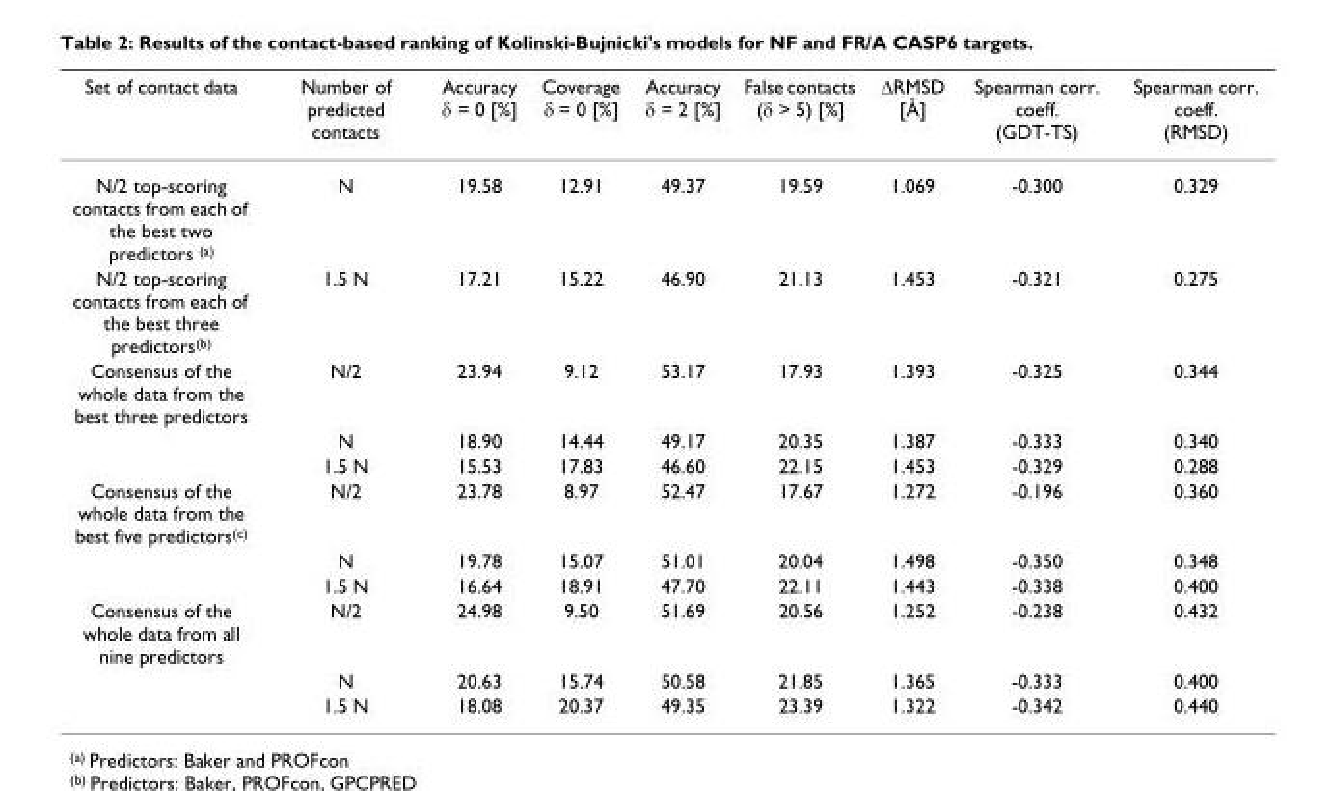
<table><thead><tr><td>Set of contact data</td><td>Number of predicted contacts</td><td>Accuracy δ = 0 [%]</td><td>Coverage δ = 0 [%]</td><td>Accuracy δ = 2 [%]</td><td>False contacts (δ &gt; 5) [%]</td><td>ΔRMSD [Å]</td><td>Spearman corr. coeff. (GDT-TS)</td><td>Spearman corr. coeff. (RMSD)</td></tr></thead><tbody><tr><td>N/2 top-scoring contacts from each of the best two predictors <sup>(a)</sup></td><td>N</td><td>19.58</td><td>12.91</td><td>49.37</td><td>19.59</td><td>1.069</td><td>-0.300</td><td>0.329</td></tr><tr><td>N/2 top-scoring contacts from each of the best three predictors<sup>(b)</sup></td><td>1.5 N</td><td>17.21</td><td>15.22</td><td>46.90</td><td>21.13</td><td>1.453</td><td>-0.321</td><td>0.275</td></tr><tr><td rowspan="3">Consensus of the whole data from the best three predictors</td><td>N/2</td><td>23.94</td><td>9.12</td><td>53.17</td><td>17.93</td><td>1.393</td><td>-0.325</td><td>0.344</td></tr><tr><td>N</td><td>18.90</td><td>14.44</td><td>49.17</td><td>20.35</td><td>1.387</td><td>-0.333</td><td>0.340</td></tr><tr><td>1.5 N</td><td>15.53</td><td>17.83</td><td>46.60</td><td>22.15</td><td>1.453</td><td>-0.329</td><td>0.288</td></tr><tr><td rowspan="3">Consensus of the whole data from the best five predictors<sup>(c)</sup></td><td>N/2</td><td>23.78</td><td>8.97</td><td>52.47</td><td>17.67</td><td>1.272</td><td>-0.196</td><td>0.360</td></tr><tr><td>N</td><td>19.78</td><td>15.07</td><td>51.01</td><td>20.04</td><td>1.498</td><td>-0.350</td><td>0.348</td></tr><tr><td>1.5 N</td><td>16.64</td><td>18.91</td><td>47.70</td><td>22.11</td><td>1.443</td><td>-0.338</td><td>0.400</td></tr><tr><td rowspan="3">Consensus of the whole data from all nine predictors</td><td>N/2</td><td>24.98</td><td>9.50</td><td>51.69</td><td>20.56</td><td>1.252</td><td>-0.238</td><td>0.432</td></tr><tr><td>N</td><td>20.63</td><td>15.74</td><td>50.58</td><td>21.85</td><td>1.365</td><td>-0.333</td><td>0.400</td></tr><tr><td>1.5 N</td><td>18.08</td><td>20.37</td><td>49.35</td><td>23.39</td><td>1.322</td><td>-0.342</td><td>0.440</td></tr></tbody></table>